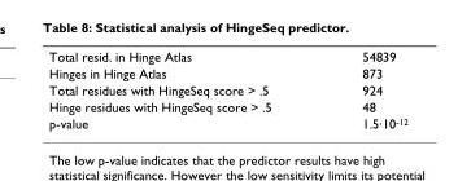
<table><tbody><tr><td>Total resid. in Hinge Atlas</td><td>54839</td></tr><tr><td>Hinges in Hinge Atlas</td><td>873</td></tr><tr><td>Total residues with HingeSeq score &gt; .5</td><td>924</td></tr><tr><td>Hinge residues with HingeSeq score &gt; .5</td><td>48</td></tr><tr><td>p-value</td><td>1.5·10<sup>-12</sup></td></tr></tbody></table>